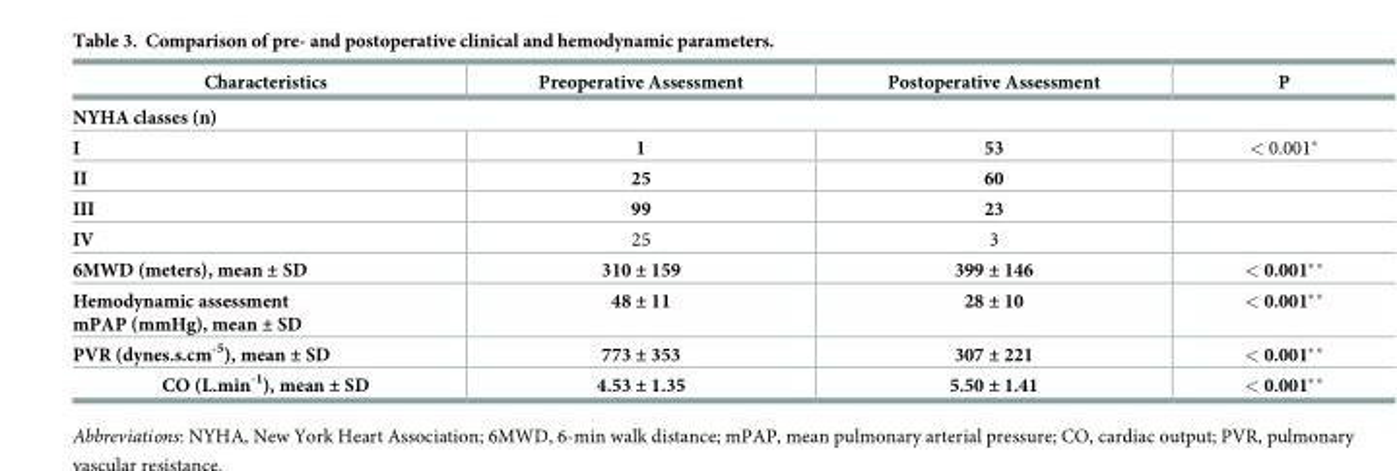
<table><thead><tr><td>Characteristics</td><td>Preoperative Assessment</td><td>Postoperative Assessment</td><td>P</td></tr></thead><tbody><tr><td colspan="4">NYHA classes (n)</td></tr><tr><td>I</td><td>1</td><td>53</td><td>&lt; 0.001*</td></tr><tr><td>II</td><td>25</td><td>60</td><td></td></tr><tr><td>III</td><td>99</td><td>23</td><td></td></tr><tr><td>IV</td><td>25</td><td>3</td><td></td></tr><tr><td>6MWD (meters), mean ± SD</td><td>310 ± 159</td><td>399 ± 146</td><td>&lt; 0.001**</td></tr><tr><td>Hemodynamic assessment mPAP (mmHg), mean ± SD</td><td>48 ± 11</td><td>28 ± 10</td><td>&lt; 0.001**</td></tr><tr><td>PVR (dynes.s.cm<sup>-5</sup>), mean ± SD</td><td>773 ± 353</td><td>307 ± 221</td><td>&lt; 0.001**</td></tr><tr><td>CO (L.min<sup>-1</sup>), mean ± SD</td><td>4.53 ± 1.35</td><td>5.50 ± 1.41</td><td>&lt; 0.001**</td></tr></tbody></table>